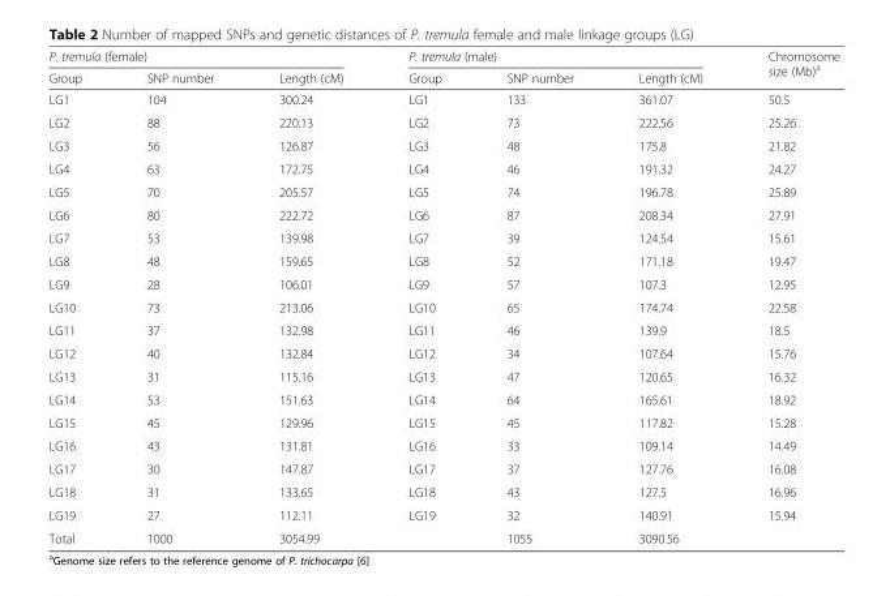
<table><thead><tr><td colspan="3">P. tremula (female)</td><td colspan="3">P. tremula (male)</td><td rowspan="2">Chromosome size (Mb)<sup>a</sup></td></tr><tr><td>Group</td><td>SNP number</td><td>Length (cM)</td><td>Group</td><td>SNP number</td><td>Length (cM)</td></tr></thead><tbody><tr><td>LG1</td><td>104</td><td>300.24</td><td>LG1</td><td>133</td><td>361.07</td><td>50.5</td></tr><tr><td>LG2</td><td>88</td><td>220.13</td><td>LG2</td><td>73</td><td>222.56</td><td>25.26</td></tr><tr><td>LG3</td><td>56</td><td>126.87</td><td>LG3</td><td>48</td><td>175.8</td><td>21.82</td></tr><tr><td>LG4</td><td>63</td><td>172.75</td><td>LG4</td><td>46</td><td>191.32</td><td>24.27</td></tr><tr><td>LG5</td><td>70</td><td>205.57</td><td>LG5</td><td>74</td><td>196.78</td><td>25.89</td></tr><tr><td>LG6</td><td>80</td><td>222.72</td><td>LG6</td><td>87</td><td>208.34</td><td>27.91</td></tr><tr><td>LG7</td><td>53</td><td>139.98</td><td>LG7</td><td>39</td><td>124.54</td><td>15.61</td></tr><tr><td>LG8</td><td>48</td><td>159.65</td><td>LG8</td><td>52</td><td>171.18</td><td>19.47</td></tr><tr><td>LG9</td><td>28</td><td>106.01</td><td>LG9</td><td>57</td><td>107.3</td><td>12.95</td></tr><tr><td>LG10</td><td>73</td><td>213.06</td><td>LG10</td><td>65</td><td>174.74</td><td>22.58</td></tr><tr><td>LG11</td><td>37</td><td>132.98</td><td>LG11</td><td>46</td><td>139.9</td><td>18.5</td></tr><tr><td>LG12</td><td>40</td><td>132.84</td><td>LG12</td><td>34</td><td>107.64</td><td>15.76</td></tr><tr><td>LG13</td><td>31</td><td>115.16</td><td>LG13</td><td>47</td><td>120.65</td><td>16.32</td></tr><tr><td>LG14</td><td>53</td><td>151.63</td><td>LG14</td><td>64</td><td>165.61</td><td>18.92</td></tr><tr><td>LG15</td><td>45</td><td>129.96</td><td>LG15</td><td>45</td><td>117.82</td><td>15.28</td></tr><tr><td>LG16</td><td>43</td><td>131.81</td><td>LG16</td><td>33</td><td>109.14</td><td>14.49</td></tr><tr><td>LG17</td><td>30</td><td>147.87</td><td>LG17</td><td>37</td><td>127.76</td><td>16.08</td></tr><tr><td>LG18</td><td>31</td><td>133.65</td><td>LG18</td><td>43</td><td>127.5</td><td>16.96</td></tr><tr><td>LG19</td><td>27</td><td>112.11</td><td>LG19</td><td>32</td><td>140.91</td><td>15.94</td></tr><tr><td>Total</td><td>1000</td><td>3054.99</td><td></td><td>1055</td><td>3090.56</td><td></td></tr></tbody></table>